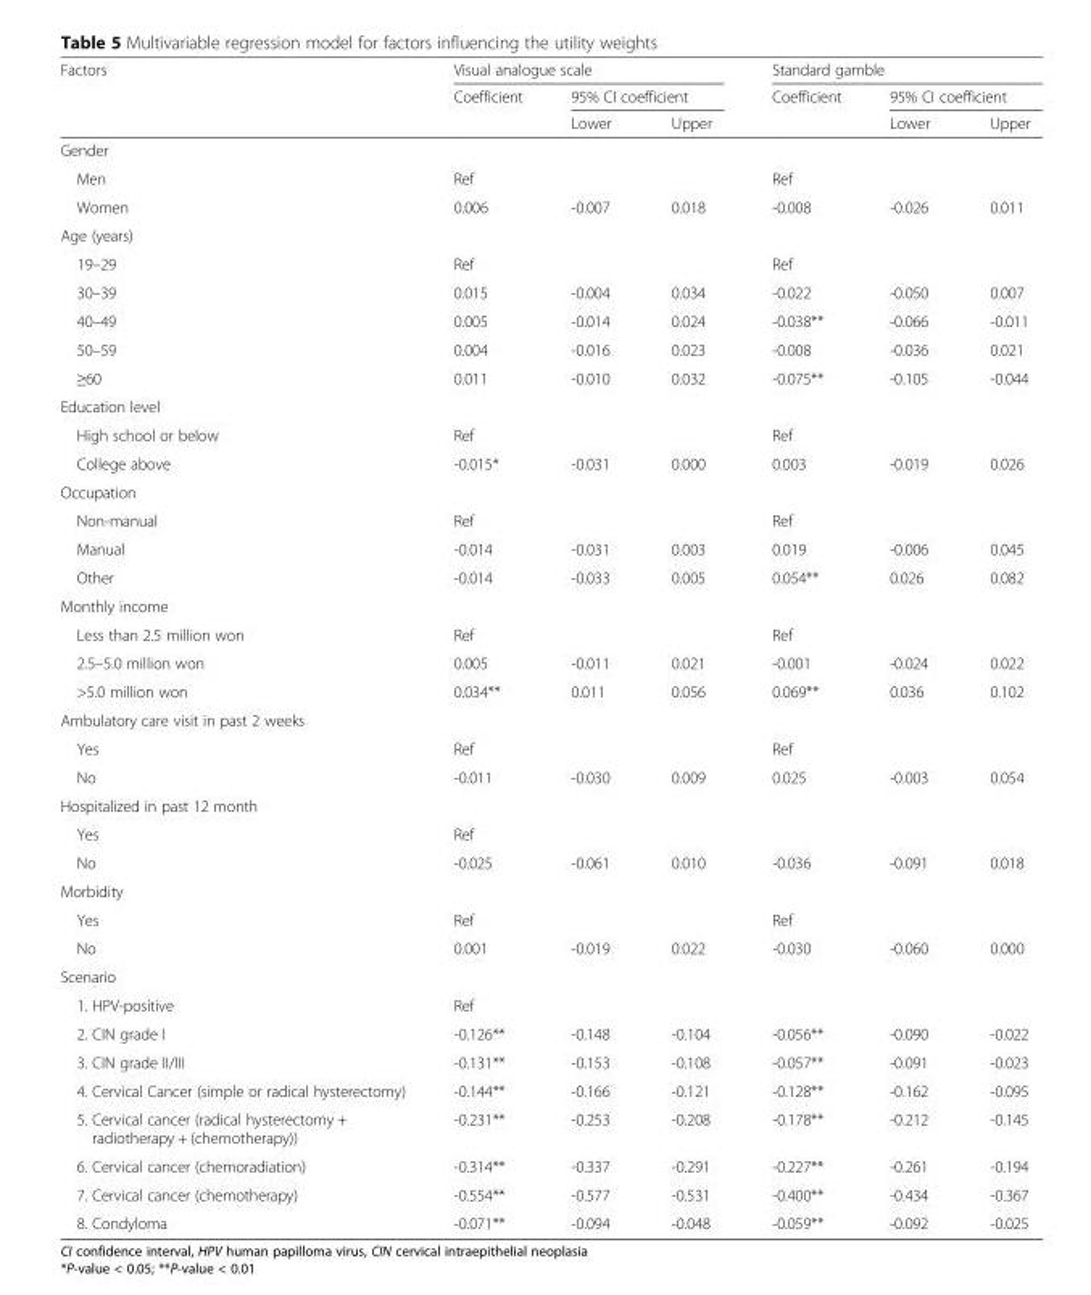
<table><thead><tr><td rowspan="3">Factors</td><td colspan="3">Visual analogue scale</td><td colspan="3">Standard gamble</td></tr><tr><td rowspan="2">Coefficient</td><td colspan="2">95% CI coefficient</td><td rowspan="2">Coefficient</td><td colspan="2">95% CI coefficient</td></tr><tr><td>Lower</td><td>Upper</td><td>Lower</td><td>Upper</td></tr></thead><tbody><tr><td colspan="7">Gender</td></tr><tr><td>Men</td><td>Ref</td><td></td><td></td><td>Ref</td><td></td><td></td></tr><tr><td>Women</td><td>0.006</td><td>-0.007</td><td>0.018</td><td>-0.008</td><td>-0.026</td><td>0.011</td></tr><tr><td colspan="7">Age (years)</td></tr><tr><td>19–29</td><td>Ref</td><td></td><td></td><td>Ref</td><td></td><td></td></tr><tr><td>30–39</td><td>0.015</td><td>-0.004</td><td>0.034</td><td>-0.022</td><td>-0.050</td><td>0.007</td></tr><tr><td>40–49</td><td>0.005</td><td>-0.014</td><td>0.024</td><td>-0.038**</td><td>-0.066</td><td>-0.011</td></tr><tr><td>50–59</td><td>0.004</td><td>-0.016</td><td>0.023</td><td>-0.008</td><td>-0.036</td><td>0.021</td></tr><tr><td>≥60</td><td>0.011</td><td>-0.010</td><td>0.032</td><td>-0.075**</td><td>-0.105</td><td>-0.044</td></tr><tr><td colspan="7">Education level</td></tr><tr><td>High school or below</td><td>Ref</td><td></td><td></td><td>Ref</td><td></td><td></td></tr><tr><td>College above</td><td>-0.015*</td><td>-0.031</td><td>0.000</td><td>0.003</td><td>-0.019</td><td>0.026</td></tr><tr><td colspan="7">Occupation</td></tr><tr><td>Non-manual</td><td>Ref</td><td></td><td></td><td>Ref</td><td></td><td></td></tr><tr><td>Manual</td><td>-0.014</td><td>-0.031</td><td>0.003</td><td>0.019</td><td>-0.006</td><td>0.045</td></tr><tr><td>Other</td><td>-0.014</td><td>-0.033</td><td>0.005</td><td>0.054**</td><td>0.026</td><td>0.082</td></tr><tr><td colspan="7">Monthly income</td></tr><tr><td>Less than 2.5 million won</td><td>Ref</td><td></td><td></td><td>Ref</td><td></td><td></td></tr><tr><td>2.5–5.0 million won</td><td>0.005</td><td>-0.011</td><td>0.021</td><td>-0.001</td><td>-0.024</td><td>0.022</td></tr><tr><td>&gt;5.0 million won</td><td>0.034**</td><td>0.011</td><td>0.056</td><td>0.069**</td><td>0.036</td><td>0.102</td></tr><tr><td colspan="7">Ambulatory care visit in past 2 weeks</td></tr><tr><td>Yes</td><td>Ref</td><td></td><td></td><td>Ref</td><td></td><td></td></tr><tr><td>No</td><td>-0.011</td><td>-0.030</td><td>0.009</td><td>0.025</td><td>-0.003</td><td>0.054</td></tr><tr><td colspan="7">Hospitalized in past 12 month</td></tr><tr><td>Yes</td><td>Ref</td><td></td><td></td><td></td><td></td><td></td></tr><tr><td>No</td><td>-0.025</td><td>-0.061</td><td>0.010</td><td>-0.036</td><td>-0.091</td><td>0.018</td></tr><tr><td colspan="7">Morbidity</td></tr><tr><td>Yes</td><td>Ref</td><td></td><td></td><td>Ref</td><td></td><td></td></tr><tr><td>No</td><td>0.001</td><td>-0.019</td><td>0.022</td><td>-0.030</td><td>-0.060</td><td>0.000</td></tr><tr><td colspan="7">Scenario</td></tr><tr><td>1. HPV-positive</td><td>Ref</td><td></td><td></td><td></td><td></td><td></td></tr><tr><td>2. CIN grade I</td><td>-0.126**</td><td>-0.148</td><td>-0.104</td><td>-0.056**</td><td>-0.090</td><td>-0.022</td></tr><tr><td>3. CIN grade II/III</td><td>-0.131**</td><td>-0.153</td><td>-0.108</td><td>-0.057**</td><td>-0.091</td><td>-0.023</td></tr><tr><td>4. Cervical Cancer (simple or radical hysterectomy)</td><td>-0.144**</td><td>-0.166</td><td>-0.121</td><td>-0.128**</td><td>-0.162</td><td>-0.095</td></tr><tr><td>5. Cervical cancer (radical hysterectomy + radiotherapy + (chemotherapy))</td><td>-0.231**</td><td>-0.253</td><td>-0.208</td><td>-0.178**</td><td>-0.212</td><td>-0.145</td></tr><tr><td>6. Cervical cancer (chemoradiation)</td><td>-0.314**</td><td>-0.337</td><td>-0.291</td><td>-0.227**</td><td>-0.261</td><td>-0.194</td></tr><tr><td>7. Cervical cancer (chemotherapy)</td><td>-0.554**</td><td>-0.577</td><td>-0.531</td><td>-0.400**</td><td>-0.434</td><td>-0.367</td></tr><tr><td>8. Condyloma</td><td>-0.071**</td><td>-0.094</td><td>-0.048</td><td>-0.059**</td><td>-0.092</td><td>-0.025</td></tr></tbody></table>